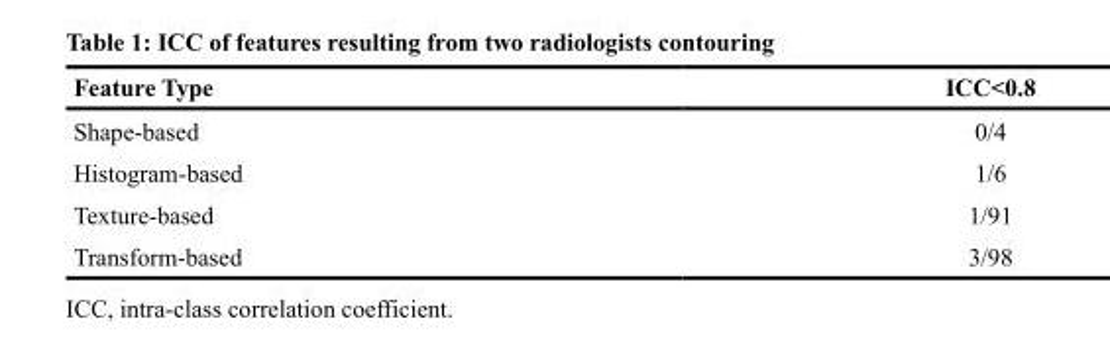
<table><thead><tr><td>Feature Type</td><td>ICC&lt;0.8</td></tr></thead><tbody><tr><td>Shape-based</td><td>0/4</td></tr><tr><td>Histogram-based</td><td>1/6</td></tr><tr><td>Texture-based</td><td>1/91</td></tr><tr><td>Transform-based</td><td>3/98</td></tr></tbody></table>